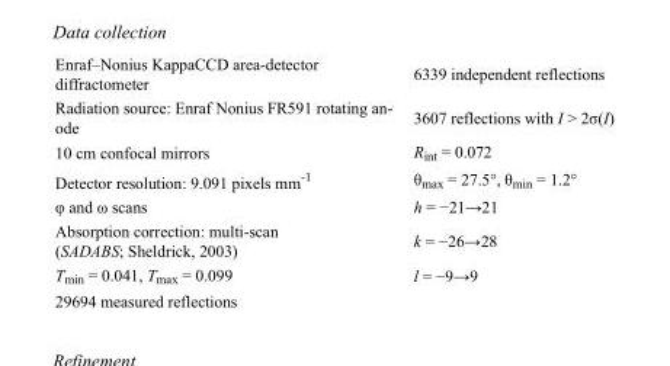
<table><tbody><tr><td>Enraf–Nonius KappaCCD area-detector diffractometer</td><td>6339 independent reflections</td></tr><tr><td>Radiation source: Enraf Nonius FR591 rotating an- ode</td><td>3607 reflections with I &gt; 2σ(I)</td></tr><tr><td>10 cm confocal mirrors</td><td>R<sub>int</sub> = 0.072</td></tr><tr><td>Detector resolution: 9.091 pixels mm<sup>-1</sup></td><td>θ<sub>max</sub> = 27.5°, θ<sub>min</sub> = 1.2°</td></tr><tr><td>φ and ω scans</td><td>h = −21→21</td></tr><tr><td>Absorption correction: multi-scan (SADABS; Sheldrick, 2003)</td><td>k = −26→28</td></tr><tr><td>T<sub>min</sub> = 0.041, T<sub>max</sub> = 0.099</td><td>l = −9→9</td></tr><tr><td>29694 measured reflections</td><td></td></tr></tbody></table>